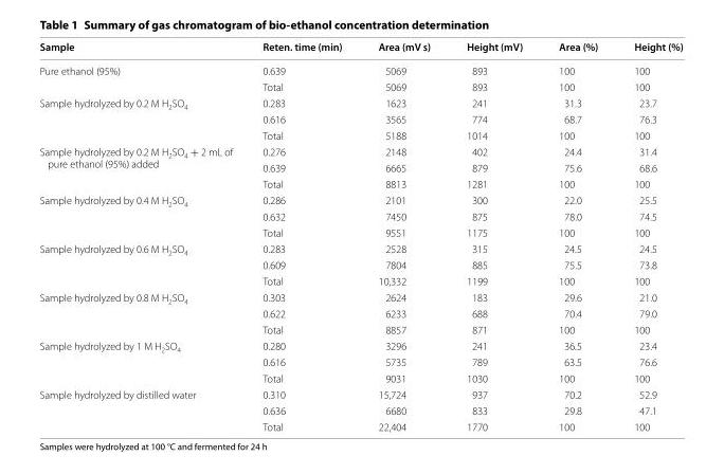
<table><thead><tr><td>Sample</td><td>Reten. time (min)</td><td>Area (mV s)</td><td>Height (mV)</td><td>Area (%)</td><td>Height (%)</td></tr></thead><tbody><tr><td rowspan="2">Pure ethanol (95%)</td><td>0.639</td><td>5069</td><td>893</td><td>100</td><td>100</td></tr><tr><td>Total</td><td>5069</td><td>893</td><td>100</td><td>100</td></tr><tr><td rowspan="3">Sample hydrolyzed by 0.2 M H<sub>2</sub>SO<sub>4</sub></td><td>0.283</td><td>1623</td><td>241</td><td>31.3</td><td>23.7</td></tr><tr><td>0.616</td><td>3565</td><td>774</td><td>68.7</td><td>76.3</td></tr><tr><td>Total</td><td>5188</td><td>1014</td><td>100</td><td>100</td></tr><tr><td rowspan="3">Sample hydrolyzed by 0.2 M H<sub>2</sub>SO<sub>4</sub> + 2 mL of pure ethanol (95%) added</td><td>0.276</td><td>2148</td><td>402</td><td>24.4</td><td>31.4</td></tr><tr><td>0.639</td><td>6665</td><td>879</td><td>75.6</td><td>68.6</td></tr><tr><td>Total</td><td>8813</td><td>1281</td><td>100</td><td>100</td></tr><tr><td rowspan="3">Sample hydrolyzed by 0.4 M H<sub>2</sub>SO<sub>4</sub></td><td>0.286</td><td>2101</td><td>300</td><td>22.0</td><td>25.5</td></tr><tr><td>0.632</td><td>7450</td><td>875</td><td>78.0</td><td>74.5</td></tr><tr><td>Total</td><td>9551</td><td>1175</td><td>100</td><td>100</td></tr><tr><td rowspan="3">Sample hydrolyzed by 0.6 M H<sub>2</sub>SO<sub>4</sub></td><td>0.283</td><td>2528</td><td>315</td><td>24.5</td><td>24.5</td></tr><tr><td>0.609</td><td>7804</td><td>885</td><td>75.5</td><td>73.8</td></tr><tr><td>Total</td><td>10,332</td><td>1199</td><td>100</td><td>100</td></tr><tr><td rowspan="3">Sample hydrolyzed by 0.8 M H<sub>2</sub>SO<sub>4</sub></td><td>0.303</td><td>2624</td><td>183</td><td>29.6</td><td>21.0</td></tr><tr><td>0.622</td><td>6233</td><td>688</td><td>70.4</td><td>79.0</td></tr><tr><td>Total</td><td>8857</td><td>871</td><td>100</td><td>100</td></tr><tr><td rowspan="3">Sample hydrolyzed by 1 M H<sub>2</sub>SO<sub>4</sub></td><td>0.280</td><td>3296</td><td>241</td><td>36.5</td><td>23.4</td></tr><tr><td>0.616</td><td>5735</td><td>789</td><td>63.5</td><td>76.6</td></tr><tr><td>Total</td><td>9031</td><td>1030</td><td>100</td><td>100</td></tr><tr><td rowspan="3">Sample hydrolyzed by distilled water</td><td>0.310</td><td>15,724</td><td>937</td><td>70.2</td><td>52.9</td></tr><tr><td>0.636</td><td>6680</td><td>833</td><td>29.8</td><td>47.1</td></tr><tr><td>Total</td><td>22,404</td><td>1770</td><td>100</td><td>100</td></tr></tbody></table>